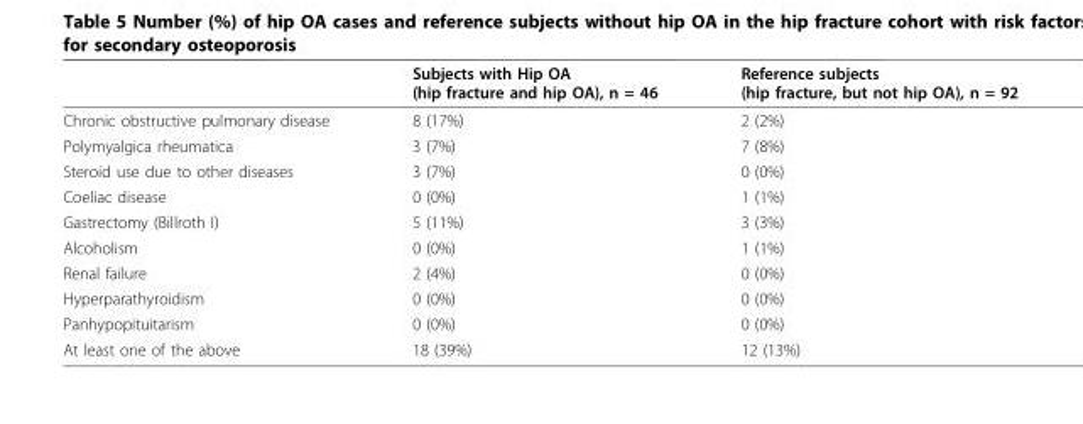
<table><thead><tr><td></td><td>Subjects with Hip OA (hip fracture and hip OA), n = 46</td><td>Reference subjects (hip fracture, but not hip OA), n = 92</td></tr></thead><tbody><tr><td>Chronic obstructive pulmonary disease</td><td>8 (17%)</td><td>2 (2%)</td></tr><tr><td>Polymyalgica rheumatica</td><td>3 (7%)</td><td>7 (8%)</td></tr><tr><td>Steroid use due to other diseases</td><td>3 (7%)</td><td>0 (0%)</td></tr><tr><td>Coeliac disease</td><td>0 (0%)</td><td>1 (1%)</td></tr><tr><td>Gastrectomy (Billroth I)</td><td>5 (11%)</td><td>3 (3%)</td></tr><tr><td>Alcoholism</td><td>0 (0%)</td><td>1 (1%)</td></tr><tr><td>Renal failure</td><td>2 (4%)</td><td>0 (0%)</td></tr><tr><td>Hyperparathyroidism</td><td>0 (0%)</td><td>0 (0%)</td></tr><tr><td>Panhypopituitarism</td><td>0 (0%)</td><td>0 (0%)</td></tr><tr><td>At least one of the above</td><td>18 (39%)</td><td>12 (13%)</td></tr></tbody></table>